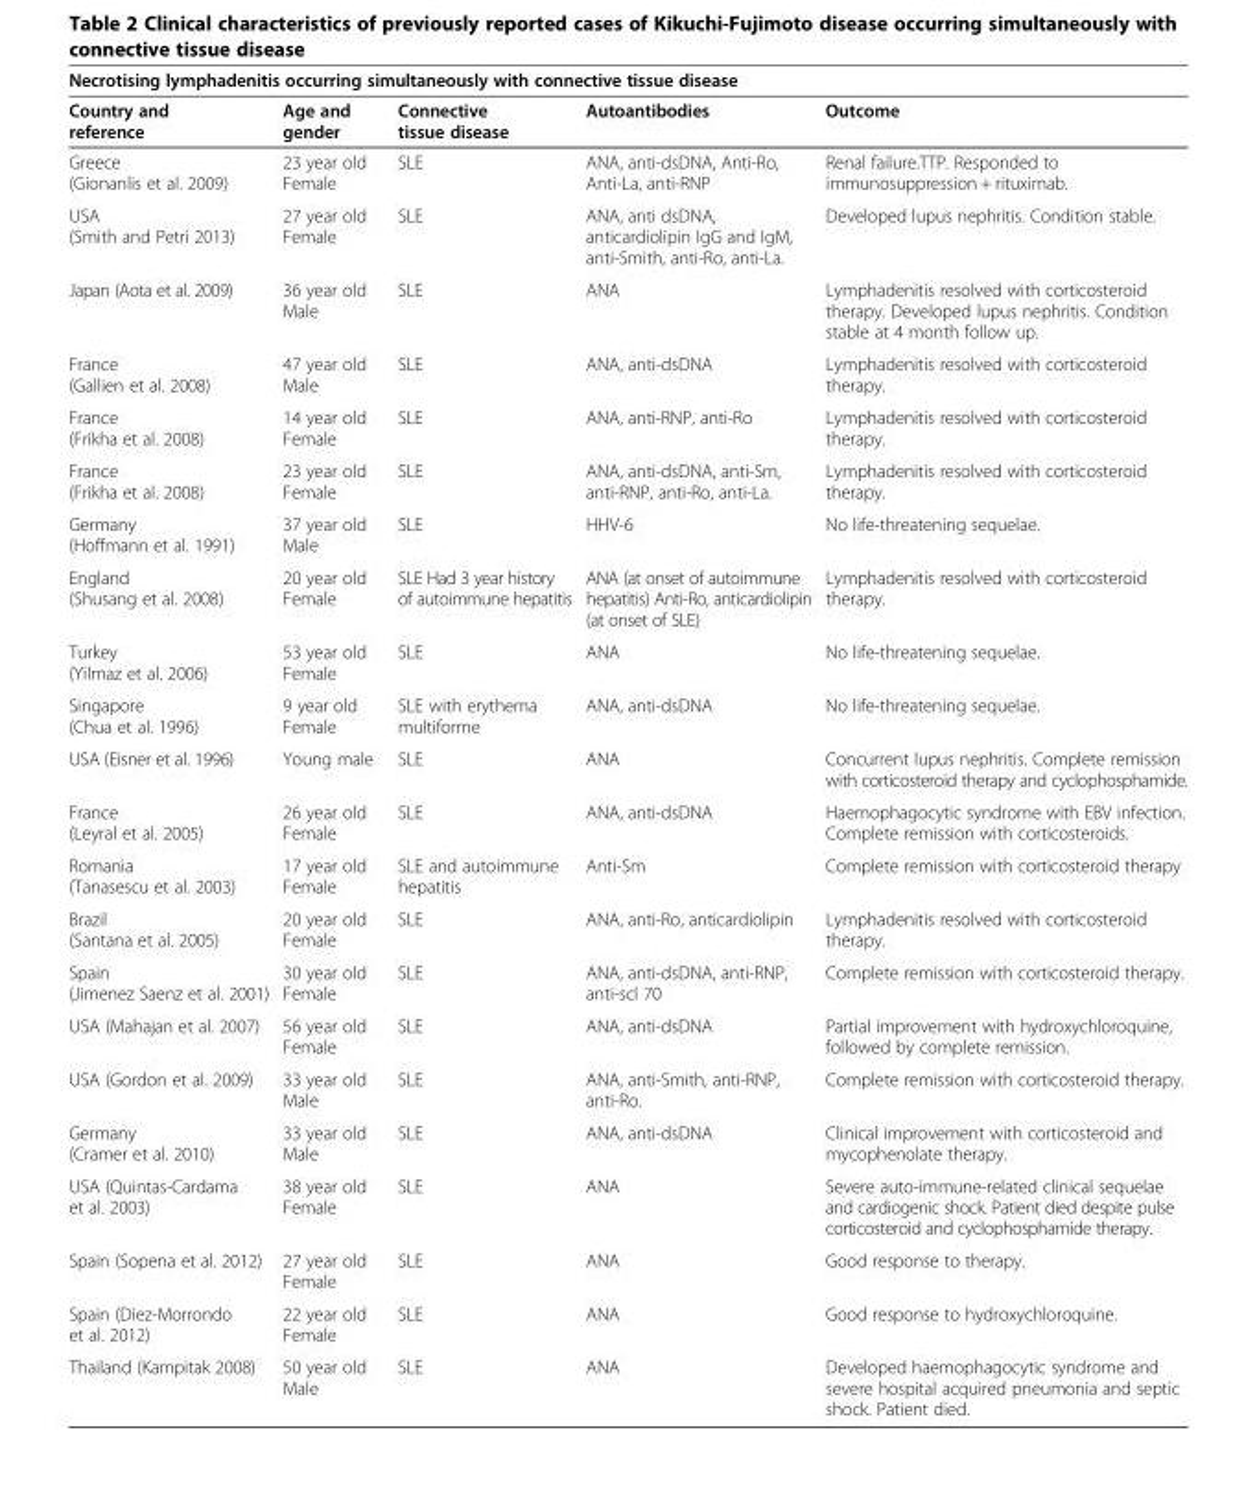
<table><thead><tr><td colspan="5">Necrotising lymphadenitis occurring simultaneously with connective tissue disease</td></tr><tr><td>Country and reference</td><td>Age and gender</td><td>Connective tissue disease</td><td>Autoantibodies</td><td>Outcome</td></tr></thead><tbody><tr><td>Greece (Gionanlis et al. 2009)</td><td>23 year old Female</td><td>SLE</td><td>ANA, anti-dsDNA, Anti-Ro, Anti-La, anti-RNP</td><td>Renal failure.TTP. Responded to immunosuppression + rituximab.</td></tr><tr><td>USA (Smith and Petri 2013)</td><td>27 year old Female</td><td>SLE</td><td>ANA, anti dsDNA, anticardiolipin IgG and IgM, anti-Smith, anti-Ro, anti-La.</td><td>Developed lupus nephritis. Condition stable.</td></tr><tr><td>Japan (Aota et al. 2009)</td><td>36 year old Male</td><td>SLE</td><td>ANA</td><td>Lymphadenitis resolved with corticosteroid therapy. Developed lupus nephritis. Condition stable at 4 month follow up.</td></tr><tr><td>France (Gallien et al. 2008)</td><td>47 year old Male</td><td>SLE</td><td>ANA, anti-dsDNA</td><td>Lymphadenitis resolved with corticosteroid therapy.</td></tr><tr><td>France (Frikha et al. 2008)</td><td>14 year old Female</td><td>SLE</td><td>ANA, anti-RNP, anti-Ro</td><td>Lymphadenitis resolved with corticosteroid therapy.</td></tr><tr><td>France (Frikha et al. 2008)</td><td>23 year old Female</td><td>SLE</td><td>ANA, anti-dsDNA, anti-Sm, anti-RNP, anti-Ro, anti-La.</td><td>Lymphadenitis resolved with corticosteroid therapy.</td></tr><tr><td>Germany (Hoffmann et al. 1991)</td><td>37 year old Male</td><td>SLE</td><td>HHV-6</td><td>No life-threatening sequelae.</td></tr><tr><td>England (Shusang et al. 2008)</td><td>20 year old Female</td><td>SLE Had 3 year history of autoimmune hepatitis</td><td>ANA (at onset of autoimmune hepatitis) Anti-Ro, anticardiolipin (at onset of SLE)</td><td>Lymphadenitis resolved with corticosteroid therapy.</td></tr><tr><td>Turkey (Yilmaz et al. 2006)</td><td>53 year old Female</td><td>SLE</td><td>ANA</td><td>No life-threatening sequelae.</td></tr><tr><td>Singapore (Chua et al. 1996)</td><td>9 year old Female</td><td>SLE with erythema multiforme</td><td>ANA, anti-dsDNA</td><td>No life-threatening sequelae.</td></tr><tr><td>USA (Eisner et al. 1996)</td><td>Young male</td><td>SLE</td><td>ANA</td><td>Concurrent lupus nephritis. Complete remission with corticosteroid therapy and cyclophosphamide.</td></tr><tr><td>France (Leyral et al. 2005)</td><td>26 year old Female</td><td>SLE</td><td>ANA, anti-dsDNA</td><td>Haemophagocytic syndrome with EBV infection. Complete remission with corticosteroids.</td></tr><tr><td>Romania (Tanasescu et al. 2003)</td><td>17 year old Female</td><td>SLE and autoimmune hepatitis</td><td>Anti-Sm</td><td>Complete remission with corticosteroid therapy</td></tr><tr><td>Brazil (Santana et al. 2005)</td><td>20 year old Female</td><td>SLE</td><td>ANA, anti-Ro, anticardiolipin</td><td>Lymphadenitis resolved with corticosteroid therapy.</td></tr><tr><td>Spain (Jimenez Saenz et al. 2001)</td><td>30 year old Female</td><td>SLE</td><td>ANA, anti-dsDNA, anti-RNP, anti-scl 70</td><td>Complete remission with corticosteroid therapy.</td></tr><tr><td>USA (Mahajan et al. 2007)</td><td>56 year old Female</td><td>SLE</td><td>ANA, anti-dsDNA</td><td>Partial improvement with hydroxychloroquine, followed by complete remission.</td></tr><tr><td>USA (Gordon et al. 2009)</td><td>33 year old Male</td><td>SLE</td><td>ANA, anti-Smith, anti-RNP, anti-Ro.</td><td>Complete remission with corticosteroid therapy.</td></tr><tr><td>Germany (Cramer et al. 2010)</td><td>33 year old Male</td><td>SLE</td><td>ANA, anti-dsDNA</td><td>Clinical improvement with corticosteroid and mycophenolate therapy.</td></tr><tr><td>USA (Quintas-Cardama et al. 2003)</td><td>38 year old Female</td><td>SLE</td><td>ANA</td><td>Severe auto-immune-related clinical sequelae and cardiogenic shock. Patient died despite pulse corticosteroid and cyclophosphamide therapy.</td></tr><tr><td>Spain (Sopena et al. 2012)</td><td>27 year old Female</td><td>SLE</td><td>ANA</td><td>Good response to therapy.</td></tr><tr><td>Spain (Diez-Morrondo et al. 2012)</td><td>22 year old Female</td><td>SLE</td><td>ANA</td><td>Good response to hydroxychloroquine.</td></tr><tr><td>Thailand (Kampitak 2008)</td><td>50 year old Male</td><td>SLE</td><td>ANA</td><td>Developed haemophagocytic syndrome and severe hospital acquired pneumonia and septic shock. Patient died.</td></tr></tbody></table>